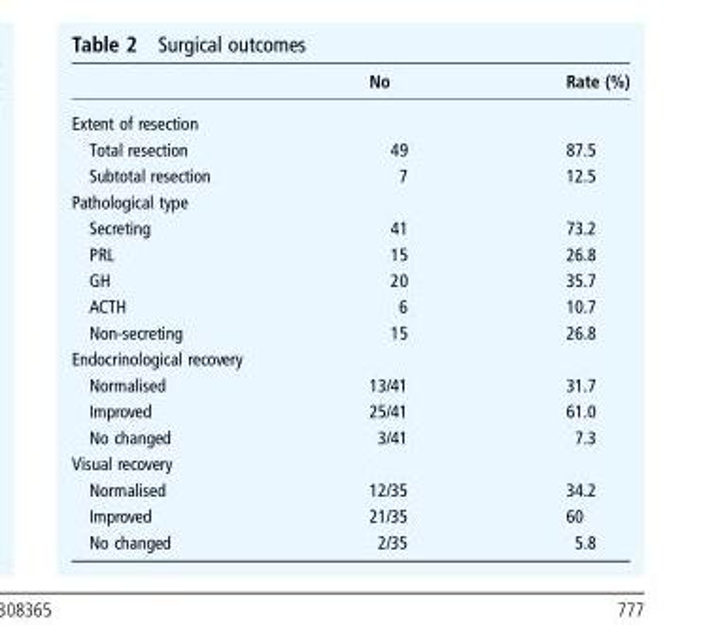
<table><thead><tr><td></td><td>No</td><td>Rate (%)</td></tr></thead><tbody><tr><td colspan="3">Extent of resection</td></tr><tr><td>Total resection</td><td>49</td><td>87.5</td></tr><tr><td>Subtotal resection</td><td>7</td><td>12.5</td></tr><tr><td colspan="3">Pathological type</td></tr><tr><td>Secreting</td><td>41</td><td>73.2</td></tr><tr><td>PRL</td><td>15</td><td>26.8</td></tr><tr><td>GH</td><td>20</td><td>35.7</td></tr><tr><td>ACTH</td><td>6</td><td>10.7</td></tr><tr><td>Non-secreting</td><td>15</td><td>26.8</td></tr><tr><td colspan="3">Endocrinological recovery</td></tr><tr><td>Normalised</td><td>13/41</td><td>31.7</td></tr><tr><td>Improved</td><td>25/41</td><td>61.0</td></tr><tr><td>No changed</td><td>3/41</td><td>7.3</td></tr><tr><td colspan="3">Visual recovery</td></tr><tr><td>Normalised</td><td>12/35</td><td>34.2</td></tr><tr><td>Improved</td><td>21/35</td><td>60</td></tr><tr><td>No changed</td><td>2/35</td><td>5.8</td></tr></tbody></table>